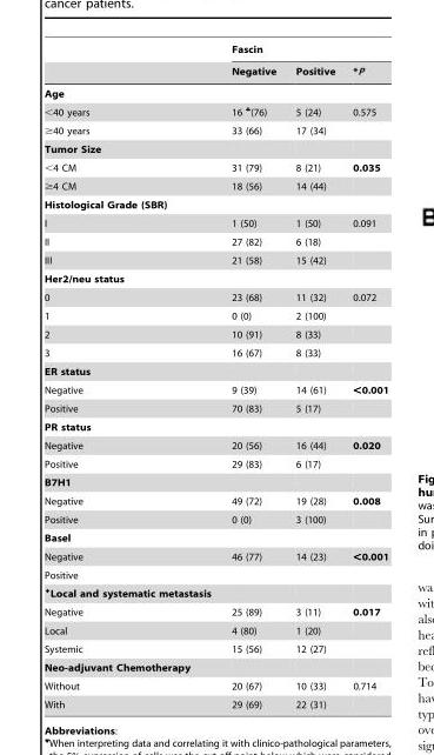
<table><thead><tr><td rowspan="2"></td><td colspan="3">Fascin</td></tr><tr><td>Negative</td><td>Positive</td><td>*P</td></tr></thead><tbody><tr><td colspan="4">Age</td></tr><tr><td>&lt;40 years</td><td>16 §(76)</td><td>5 (24)</td><td>0.575</td></tr><tr><td>≥40 years</td><td>33 (66)</td><td>17 (34)</td><td></td></tr><tr><td colspan="4">Tumor Size</td></tr><tr><td>&lt;4 CM</td><td>31 (79)</td><td>8 (21)</td><td>0.035</td></tr><tr><td>≥4 CM</td><td>18 (56)</td><td>14 (44)</td><td></td></tr><tr><td colspan="4">Histological Grade (SBR)</td></tr><tr><td>I</td><td>1 (50)</td><td>1 (50)</td><td>0.091</td></tr><tr><td>II</td><td>27 (82)</td><td>6 (18)</td><td></td></tr><tr><td>III</td><td>21 (58)</td><td>15 (42)</td><td></td></tr><tr><td colspan="4">Her2/neu status</td></tr><tr><td>0</td><td>23 (68)</td><td>11 (32)</td><td>0.072</td></tr><tr><td>1</td><td>0 (0)</td><td>2 (100)</td><td></td></tr><tr><td>2</td><td>10 (91)</td><td>8 (33)</td><td></td></tr><tr><td>3</td><td>16 (67)</td><td>8 (33)</td><td></td></tr><tr><td colspan="4">ER status</td></tr><tr><td>Negative</td><td>9 (39)</td><td>14 (61)</td><td>&lt;0.001</td></tr><tr><td>Positive</td><td>70 (83)</td><td>5 (17)</td><td></td></tr><tr><td colspan="4">PR status</td></tr><tr><td>Negative</td><td>20 (56)</td><td>16 (44)</td><td>0.020</td></tr><tr><td>Positive</td><td>29 (83)</td><td>6 (17)</td><td></td></tr><tr><td colspan="4">B7H1</td></tr><tr><td>Negative</td><td>49 (72)</td><td>19 (28)</td><td>0.008</td></tr><tr><td>Positive</td><td>0 (0)</td><td>3 (100)</td><td></td></tr><tr><td colspan="4">Basel</td></tr><tr><td>Negative</td><td>46 (77)</td><td>14 (23)</td><td>&lt;0.001</td></tr><tr><td colspan="4">Positive</td></tr><tr><td colspan="4">¤Local and systematic metastasis</td></tr><tr><td>Negative</td><td>25 (89)</td><td>3 (11)</td><td>0.017</td></tr><tr><td>Local</td><td>4 (80)</td><td>1 (20)</td><td></td></tr><tr><td>Systemic</td><td>15 (56)</td><td>12 (27)</td><td></td></tr><tr><td colspan="4">Neo-adjuvant Chemotherapy</td></tr><tr><td>Without</td><td>20 (67)</td><td>10 (33)</td><td>0.714</td></tr><tr><td>With</td><td>29 (69)</td><td>22 (31)</td><td></td></tr></tbody></table>